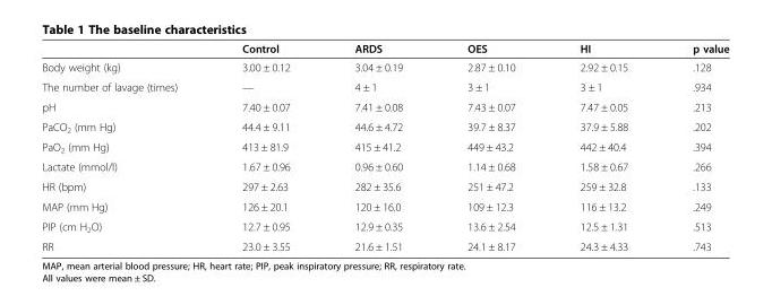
<table><thead><tr><td></td><td>Control</td><td>ARDS</td><td>OES</td><td>HI</td><td>p value</td></tr></thead><tbody><tr><td>Body weight (kg)</td><td>3.00 ± 0.12</td><td>3.04 ± 0.19</td><td>2.87 ± 0.10</td><td>2.92 ± 0.15</td><td>.128</td></tr><tr><td>The number of lavage (times)</td><td>—</td><td>4 ± 1</td><td>3 ± 1</td><td>3 ± 1</td><td>.934</td></tr><tr><td>pH</td><td>7.40 ± 0.07</td><td>7.41 ± 0.08</td><td>7.43 ± 0.07</td><td>7.47 ± 0.05</td><td>.213</td></tr><tr><td>PaCO<sub>2</sub> (mm Hg)</td><td>44.4 ± 9.11</td><td>44.6 ± 4.72</td><td>39.7 ± 8.37</td><td>37.9 ± 5.88</td><td>.202</td></tr><tr><td>PaO<sub>2</sub> (mm Hg)</td><td>413 ± 81.9</td><td>415 ± 41.2</td><td>449 ± 43.2</td><td>442 ± 40.4</td><td>.394</td></tr><tr><td>Lactate (mmol/l)</td><td>1.67 ± 0.96</td><td>0.96 ± 0.60</td><td>1.14 ± 0.68</td><td>1.58 ± 0.67</td><td>.266</td></tr><tr><td>HR (bpm)</td><td>297 ± 2.63</td><td>282 ± 35.6</td><td>251 ± 47.2</td><td>259 ± 32.8</td><td>.133</td></tr><tr><td>MAP (mm Hg)</td><td>126 ± 20.1</td><td>120 ± 16.0</td><td>109 ± 12.3</td><td>116 ± 13.2</td><td>.249</td></tr><tr><td>PIP (cm H<sub>2</sub>O)</td><td>12.7 ± 0.95</td><td>12.9 ± 0.35</td><td>13.6 ± 2.54</td><td>12.5 ± 1.31</td><td>.513</td></tr><tr><td>RR</td><td>23.0 ± 3.55</td><td>21.6 ± 1.51</td><td>24.1 ± 8.17</td><td>24.3 ± 4.33</td><td>.743</td></tr></tbody></table>